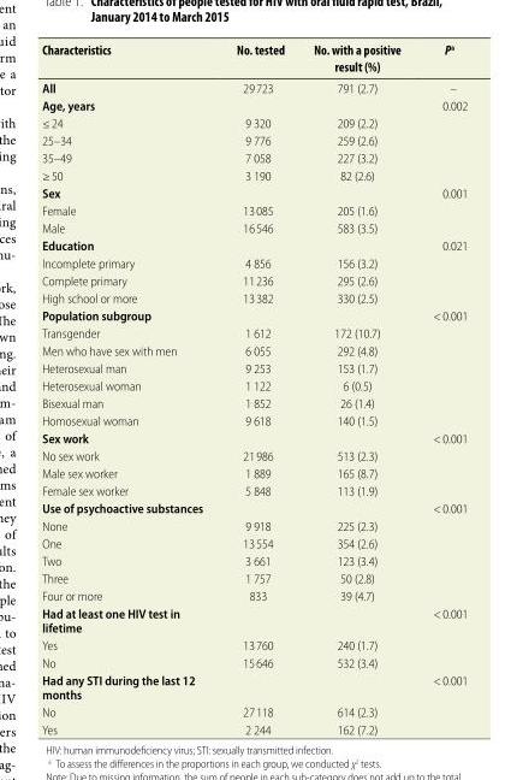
<table><thead><tr><td>Characteristics</td><td>No. tested</td><td>No. with a positive result (%)</td><td>P<sup>a</sup></td></tr></thead><tbody><tr><td>All</td><td>29 723</td><td>791 (2.7)</td><td>–</td></tr><tr><td>Age, years</td><td></td><td></td><td>0.002</td></tr><tr><td>≤ 24</td><td>9 320</td><td>209 (2.2)</td><td></td></tr><tr><td>25–34</td><td>9 776</td><td>259 (2.6)</td><td></td></tr><tr><td>35–49</td><td>7 058</td><td>227 (3.2)</td><td></td></tr><tr><td>≥ 50</td><td>3 190</td><td>82 (2.6)</td><td></td></tr><tr><td>Sex</td><td></td><td></td><td>0.001</td></tr><tr><td>Female</td><td>13 085</td><td>205 (1.6)</td><td></td></tr><tr><td>Male</td><td>16 546</td><td>583 (3.5)</td><td></td></tr><tr><td>Education</td><td></td><td></td><td>0.021</td></tr><tr><td>Incomplete primary</td><td>4 856</td><td>156 (3.2)</td><td></td></tr><tr><td>Complete primary</td><td>11 236</td><td>295 (2.6)</td><td></td></tr><tr><td>High school or more</td><td>13 382</td><td>330 (2.5)</td><td></td></tr><tr><td>Population subgroup</td><td></td><td></td><td>&lt; 0.001</td></tr><tr><td>Transgender</td><td>1 612</td><td>172 (10.7)</td><td></td></tr><tr><td>Men who have sex with men</td><td>6 055</td><td>292 (4.8)</td><td></td></tr><tr><td>Heterosexual man</td><td>9 253</td><td>153 (1.7)</td><td></td></tr><tr><td>Heterosexual woman</td><td>1 122</td><td>6 (0.5)</td><td></td></tr><tr><td>Bisexual man</td><td>1 852</td><td>26 (1.4)</td><td></td></tr><tr><td>Homosexual woman</td><td>9 618</td><td>140 (1.5)</td><td></td></tr><tr><td>Sex work</td><td></td><td></td><td>&lt; 0.001</td></tr><tr><td>No sex work</td><td>21 986</td><td>513 (2.3)</td><td></td></tr><tr><td>Male sex worker</td><td>1 889</td><td>165 (8.7)</td><td></td></tr><tr><td>Female sex worker</td><td>5 848</td><td>113 (1.9)</td><td></td></tr><tr><td>Use of psychoactive substances</td><td></td><td></td><td>&lt; 0.001</td></tr><tr><td>None</td><td>9 918</td><td>225 (2.3)</td><td></td></tr><tr><td>One</td><td>13 554</td><td>354 (2.6)</td><td></td></tr><tr><td>Two</td><td>3 661</td><td>123 (3.4)</td><td></td></tr><tr><td>Three</td><td>1 757</td><td>50 (2.8)</td><td></td></tr><tr><td>Four or more</td><td>833</td><td>39 (4.7)</td><td></td></tr><tr><td>Had at least one HIV test in lifetime</td><td></td><td></td><td>&lt; 0.001</td></tr><tr><td>Yes</td><td>13 760</td><td>240 (1.7)</td><td></td></tr><tr><td>No</td><td>15 646</td><td>532 (3.4)</td><td></td></tr><tr><td>Had any STI during the last 12 months</td><td></td><td></td><td>&lt; 0.001</td></tr><tr><td>No</td><td>27 118</td><td>614 (2.3)</td><td></td></tr><tr><td>Yes</td><td>2 244</td><td>162 (7.2)</td><td></td></tr></tbody></table>